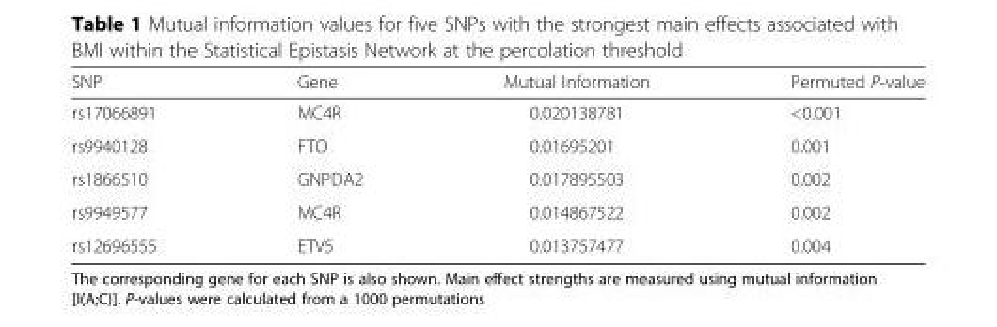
<table><thead><tr><td>SNP</td><td>Gene</td><td>Mutual Information</td><td>Permuted P-value</td></tr></thead><tbody><tr><td>rs17066891</td><td>MC4R</td><td>0.020138781</td><td>&lt;0.001</td></tr><tr><td>rs9940128</td><td>FTO</td><td>0.01695201</td><td>0.001</td></tr><tr><td>rs1866510</td><td>GNPDA2</td><td>0.017895503</td><td>0.002</td></tr><tr><td>rs9949577</td><td>MC4R</td><td>0.014867522</td><td>0.002</td></tr><tr><td>rs12696555</td><td>ETV5</td><td>0.013757477</td><td>0.004</td></tr></tbody></table>